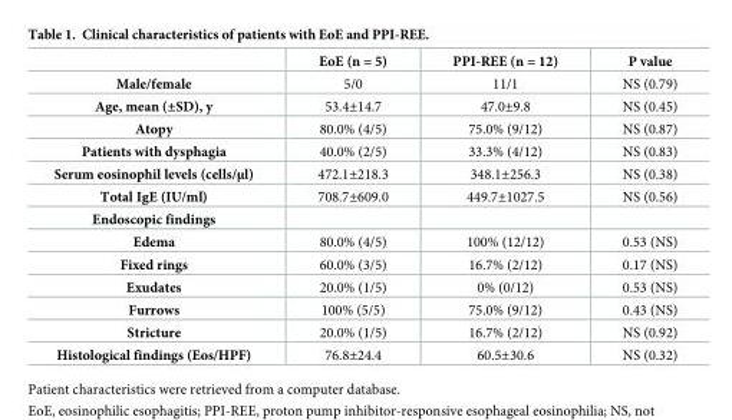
<table><thead><tr><td></td><td>EoE (n = 5)</td><td>PPI-REE (n = 12)</td><td>P value</td></tr></thead><tbody><tr><td>Male/female</td><td>5/0</td><td>11/1</td><td>NS (0.79)</td></tr><tr><td>Age, mean (±SD), y</td><td>53.4±14.7</td><td>47.0±9.8</td><td>NS (0.45)</td></tr><tr><td>Atopy</td><td>80.0% (4/5)</td><td>75.0% (9/12)</td><td>NS (0.87)</td></tr><tr><td>Patients with dysphagia</td><td>40.0% (2/5)</td><td>33.3% (4/12)</td><td>NS (0.83)</td></tr><tr><td>Serum eosinophil levels (cells/μl)</td><td>472.1±218.3</td><td>348.1±256.3</td><td>NS (0.38)</td></tr><tr><td>Total IgE (IU/ml)</td><td>708.7±609.0</td><td>449.7±1027.5</td><td>NS (0.56)</td></tr><tr><td colspan="4">Endoscopic findings</td></tr><tr><td>Edema</td><td>80.0% (4/5)</td><td>100% (12/12)</td><td>0.53 (NS)</td></tr><tr><td>Fixed rings</td><td>60.0% (3/5)</td><td>16.7% (2/12)</td><td>0.17 (NS)</td></tr><tr><td>Exudates</td><td>20.0% (1/5)</td><td>0% (0/12)</td><td>0.53 (NS)</td></tr><tr><td>Furrows</td><td>100% (5/5)</td><td>75.0% (9/12)</td><td>0.43 (NS)</td></tr><tr><td>Stricture</td><td>20.0% (1/5)</td><td>16.7% (2/12)</td><td>NS (0.92)</td></tr><tr><td>Histological findings (Eos/HPF)</td><td>76.8±24.4</td><td>60.5±30.6</td><td>NS (0.32)</td></tr></tbody></table>